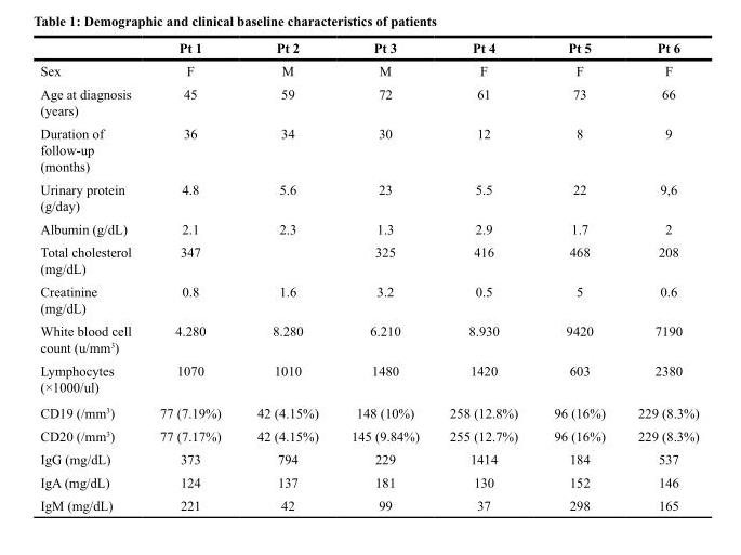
<table><thead><tr><td></td><td>Pt 1</td><td>Pt 2</td><td>Pt 3</td><td>Pt 4</td><td>Pt 5</td><td>Pt 6</td></tr></thead><tbody><tr><td>Sex</td><td>F</td><td>M</td><td>M</td><td>F</td><td>F</td><td>F</td></tr><tr><td>Age at diagnosis (years)</td><td>45</td><td>59</td><td>72</td><td>61</td><td>73</td><td>66</td></tr><tr><td>Duration of follow-up (months)</td><td>36</td><td>34</td><td>30</td><td>12</td><td>8</td><td>9</td></tr><tr><td>Urinary protein (g/day)</td><td>4.8</td><td>5.6</td><td>23</td><td>5.5</td><td>22</td><td>9,6</td></tr><tr><td>Albumin (g/dL)</td><td>2.1</td><td>2.3</td><td>1.3</td><td>2.9</td><td>1.7</td><td>2</td></tr><tr><td>Total cholesterol (mg/dL)</td><td>347</td><td></td><td>325</td><td>416</td><td>468</td><td>208</td></tr><tr><td>Creatinine (mg/dL)</td><td>0.8</td><td>1.6</td><td>3.2</td><td>0.5</td><td>5</td><td>0.6</td></tr><tr><td>White blood cell count (u/mm<sup>3</sup>)</td><td>4.280</td><td>8.280</td><td>6.210</td><td>8.930</td><td>9420</td><td>7190</td></tr><tr><td>Lymphocytes (×1000/ul)</td><td>1070</td><td>1010</td><td>1480</td><td>1420</td><td>603</td><td>2380</td></tr><tr><td>CD19 (/mm<sup>3</sup>)</td><td>77 (7.19%)</td><td>42 (4.15%)</td><td>148 (10%)</td><td>258 (12.8%)</td><td>96 (16%)</td><td>229 (8.3%)</td></tr><tr><td>CD20 (/mm<sup>3</sup>)</td><td>77 (7.17%)</td><td>42 (4.15%)</td><td>145 (9.84%)</td><td>255 (12.7%)</td><td>96 (16%)</td><td>229 (8.3%)</td></tr><tr><td>IgG (mg/dL)</td><td>373</td><td>794</td><td>229</td><td>1414</td><td>184</td><td>537</td></tr><tr><td>IgA (mg/dL)</td><td>124</td><td>137</td><td>181</td><td>130</td><td>152</td><td>146</td></tr><tr><td>IgM (mg/dL)</td><td>221</td><td>42</td><td>99</td><td>37</td><td>298</td><td>165</td></tr></tbody></table>